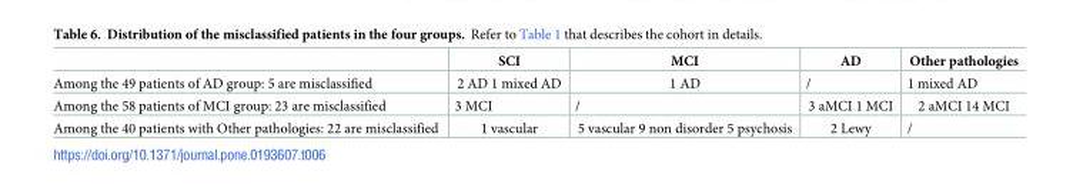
<table><thead><tr><td></td><td>SCI</td><td>MCI</td><td>AD</td><td>Other pathologies</td></tr></thead><tbody><tr><td>Among the 49 patients of AD group: 5 are misclassified</td><td>2 AD 1 mixed AD</td><td>1 AD</td><td>/</td><td>1 mixed AD</td></tr><tr><td>Among the 58 patients of MCI group: 23 are misclassified</td><td>3 MCI</td><td>/</td><td>3 aMCI 1 MCI</td><td>2 aMCI 14 MCI</td></tr><tr><td>Among the 40 patients with Other pathologies: 22 are misclassified</td><td>1 vascular</td><td>5 vascular 9 non disorder 5 psychosis</td><td>2 Lewy</td><td>/</td></tr></tbody></table>